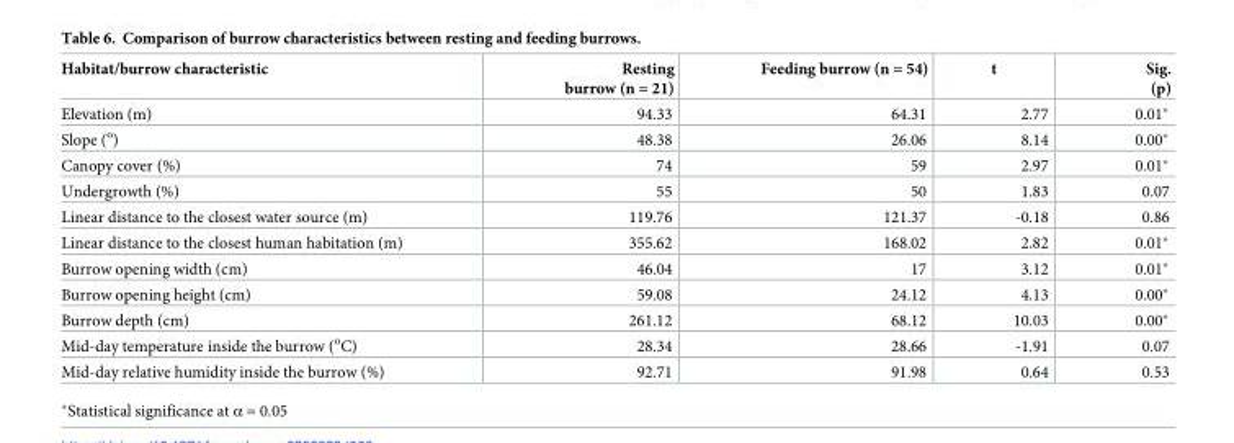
<table><thead><tr><td>Habitat/burrow characteristic</td><td>Resting burrow (n = 21)</td><td>Feeding burrow (n = 54)</td><td>t</td><td>Sig. (p)</td></tr></thead><tbody><tr><td>Elevation (m)</td><td>94.33</td><td>64.31</td><td>2.77</td><td>0.01*</td></tr><tr><td>Slope (<sup>o</sup>)</td><td>48.38</td><td>26.06</td><td>8.14</td><td>0.00*</td></tr><tr><td>Canopy cover (%)</td><td>74</td><td>59</td><td>2.97</td><td>0.01*</td></tr><tr><td>Undergrowth (%)</td><td>55</td><td>50</td><td>1.83</td><td>0.07</td></tr><tr><td>Linear distance to the closest water source (m)</td><td>119.76</td><td>121.37</td><td>-0.18</td><td>0.86</td></tr><tr><td>Linear distance to the closest human habitation (m)</td><td>355.62</td><td>168.02</td><td>2.82</td><td>0.01*</td></tr><tr><td>Burrow opening width (cm)</td><td>46.04</td><td>17</td><td>3.12</td><td>0.01*</td></tr><tr><td>Burrow opening height (cm)</td><td>59.08</td><td>24.12</td><td>4.13</td><td>0.00*</td></tr><tr><td>Burrow depth (cm)</td><td>261.12</td><td>68.12</td><td>10.03</td><td>0.00*</td></tr><tr><td>Mid-day temperature inside the burrow (<sup>o</sup>C)</td><td>28.34</td><td>28.66</td><td>-1.91</td><td>0.07</td></tr><tr><td>Mid-day relative humidity inside the burrow (%)</td><td>92.71</td><td>91.98</td><td>0.64</td><td>0.53</td></tr></tbody></table>